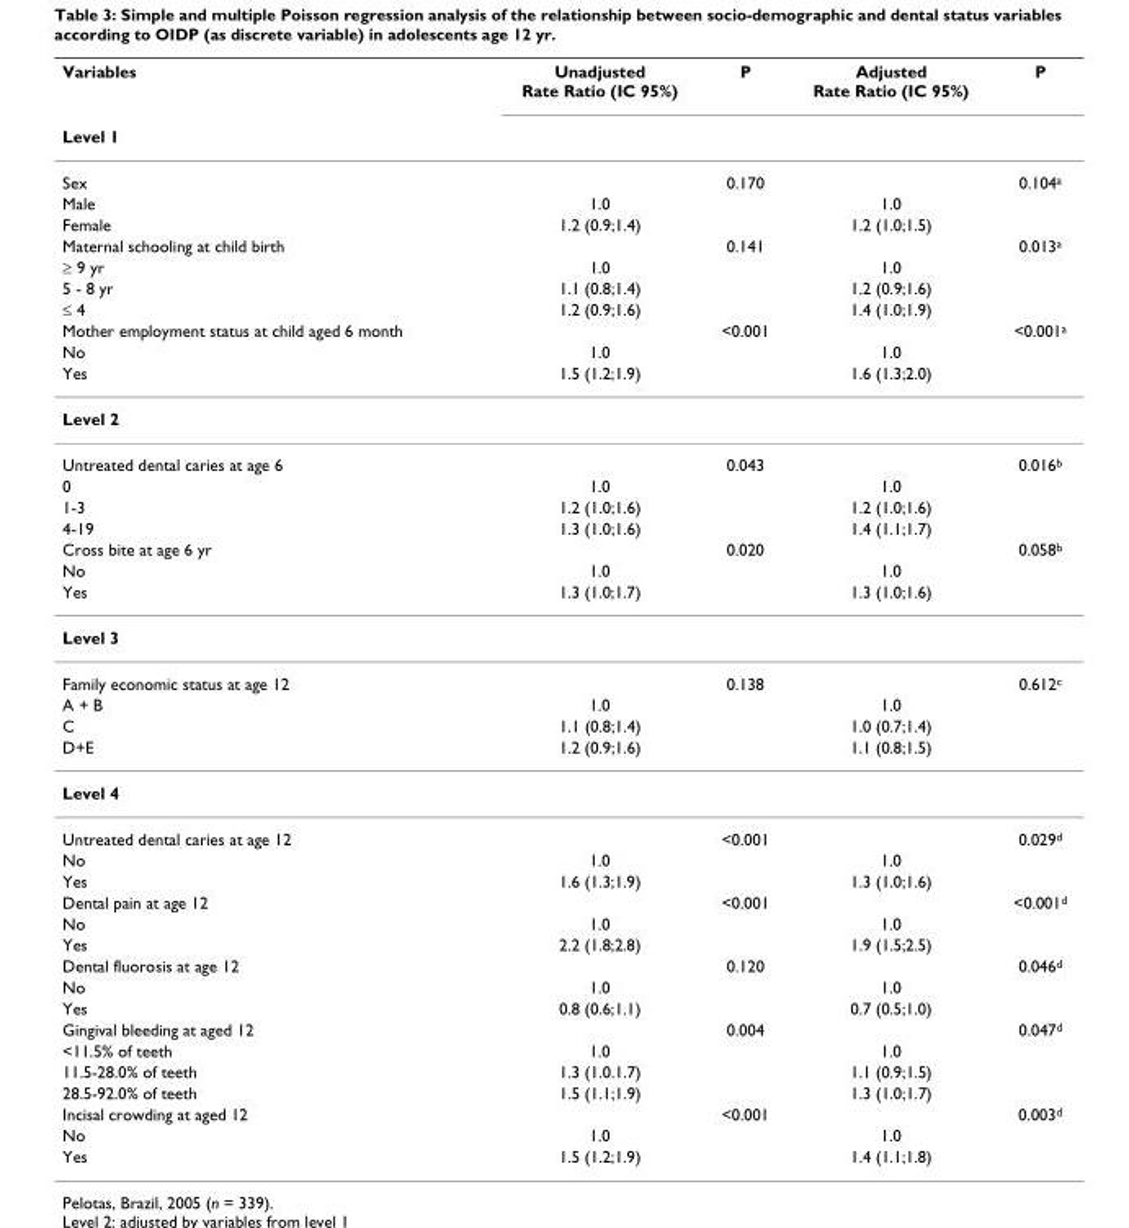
<table><thead><tr><td rowspan="2">Variables Level 1</td><td rowspan="2">Unadjusted Rate Ratio (IC 95%)</td><td rowspan="2">P</td><td rowspan="2">Adjusted Rate Ratio (IC 95%)</td><td rowspan="2">P</td></tr><tr></tr></thead><tbody><tr><td>Sex</td><td></td><td>0.170</td><td></td><td>0.104<sup>a</sup></td></tr><tr><td>Male</td><td>1.0</td><td></td><td>1.0</td><td></td></tr><tr><td>Female</td><td>1.2 (0.9;1.4)</td><td></td><td>1.2 (1.0;1.5)</td><td></td></tr><tr><td>Maternal schooling at child birth</td><td></td><td>0.141</td><td></td><td>0.013<sup>a</sup></td></tr><tr><td>≥ 9 yr</td><td>1.0</td><td></td><td>1.0</td><td></td></tr><tr><td>5 - 8 yr</td><td>1.1 (0.8;1.4)</td><td></td><td>1.2 (0.9;1.6)</td><td></td></tr><tr><td>≤ 4</td><td>1.2 (0.9;1.6)</td><td></td><td>1.4 (1.0;1.9)</td><td></td></tr><tr><td>Mother employment status at child aged 6 month</td><td></td><td>&lt;0.001</td><td></td><td>&lt;0.001<sup>a</sup></td></tr><tr><td>No</td><td>1.0</td><td></td><td>1.0</td><td></td></tr><tr><td>Yes</td><td>1.5 (1.2;1.9)</td><td></td><td>1.6 (1.3;2.0)</td><td></td></tr><tr><td colspan="5">Level 2</td></tr><tr><td>Untreated dental caries at age 6</td><td></td><td>0.043</td><td></td><td>0.016<sup>b</sup></td></tr><tr><td>0</td><td>1.0</td><td></td><td>1.0</td><td></td></tr><tr><td>1-3</td><td>1.2 (1.0;1.6)</td><td></td><td>1.2 (1.0;1.6)</td><td></td></tr><tr><td>4-19</td><td>1.3 (1.0;1.6)</td><td></td><td>1.4 (1.1;1.7)</td><td></td></tr><tr><td>Cross bite at age 6 yr</td><td></td><td>0.020</td><td></td><td>0.058<sup>b</sup></td></tr><tr><td>No</td><td>1.0</td><td></td><td>1.0</td><td></td></tr><tr><td>Yes</td><td>1.3 (1.0;1.7)</td><td></td><td>1.3 (1.0;1.6)</td><td></td></tr><tr><td colspan="5">Level 3</td></tr><tr><td>Family economic status at age 12</td><td></td><td>0.138</td><td></td><td>0.612<sup>c</sup></td></tr><tr><td>A + B</td><td>1.0</td><td></td><td>1.0</td><td></td></tr><tr><td>C</td><td>1.1 (0.8;1.4)</td><td></td><td>1.0 (0.7;1.4)</td><td></td></tr><tr><td>D+E</td><td>1.2 (0.9;1.6)</td><td></td><td>1.1 (0.8;1.5)</td><td></td></tr><tr><td colspan="5">Level 4</td></tr><tr><td>Untreated dental caries at age 12</td><td></td><td>&lt;0.001</td><td></td><td>0.029<sup>d</sup></td></tr><tr><td>No</td><td>1.0</td><td></td><td>1.0</td><td></td></tr><tr><td>Yes</td><td>1.6 (1.3;1.9)</td><td></td><td>1.3 (1.0;1.6)</td><td></td></tr><tr><td>Dental pain at age 12</td><td></td><td>&lt;0.001</td><td></td><td>&lt;0.001<sup>d</sup></td></tr><tr><td>No</td><td>1.0</td><td></td><td>1.0</td><td></td></tr><tr><td>Yes</td><td>2.2 (1.8;2.8)</td><td></td><td>1.9 (1.5;2.5)</td><td></td></tr><tr><td>Dental fluorosis at age 12</td><td></td><td>0.120</td><td></td><td>0.046<sup>d</sup></td></tr><tr><td>No</td><td>1.0</td><td></td><td>1.0</td><td></td></tr><tr><td>Yes</td><td>0.8 (0.6;1.1)</td><td></td><td>0.7 (0.5;1.0)</td><td></td></tr><tr><td>Gingival bleeding at aged 12</td><td></td><td>0.004</td><td></td><td>0.047<sup>d</sup></td></tr><tr><td>&lt;11.5% of teeth</td><td>1.0</td><td></td><td>1.0</td><td></td></tr><tr><td>11.5-28.0% of teeth</td><td>1.3 (1.0.1.7)</td><td></td><td>1.1 (0.9;1.5)</td><td></td></tr><tr><td>28.5-92.0% of teeth</td><td>1.5 (1.1;1.9)</td><td></td><td>1.3 (1.0;1.7)</td><td></td></tr><tr><td>Incisal crowding at aged 12</td><td></td><td>&lt;0.001</td><td></td><td>0.003<sup>d</sup></td></tr><tr><td>No</td><td>1.0</td><td></td><td>1.0</td><td></td></tr><tr><td>Yes</td><td>1.5 (1.2;1.9)</td><td></td><td>1.4 (1.1;1.8)</td><td></td></tr></tbody></table>